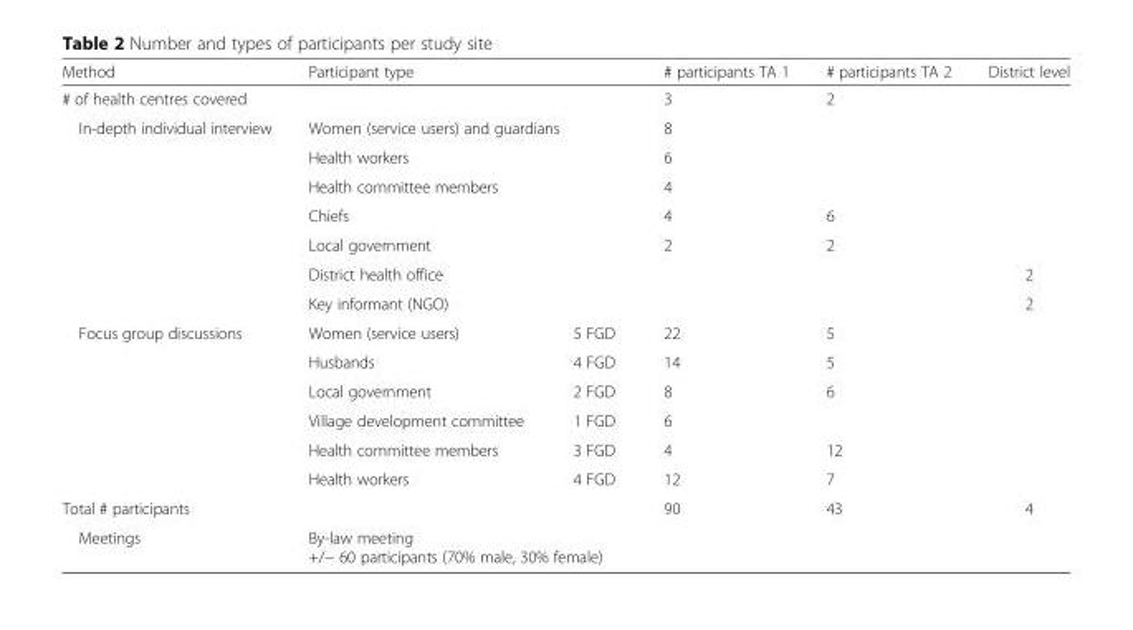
<table><thead><tr><td>Method</td><td colspan="2">Participant type</td><td># participants TA 1</td><td># participants TA 2</td><td>District level</td></tr></thead><tbody><tr><td colspan="3"># of health centres covered</td><td>3</td><td>2</td><td></td></tr><tr><td rowspan="7">In-depth individual interview</td><td colspan="2">Women (service users) and guardians</td><td>8</td><td></td><td></td></tr><tr><td colspan="2">Health workers</td><td>6</td><td></td><td></td></tr><tr><td colspan="2">Health committee members</td><td>4</td><td></td><td></td></tr><tr><td colspan="2">Chiefs</td><td>4</td><td>6</td><td></td></tr><tr><td colspan="2">Local government</td><td>2</td><td>2</td><td></td></tr><tr><td colspan="2">District health office</td><td></td><td></td><td>2</td></tr><tr><td colspan="2">Key informant (NGO)</td><td></td><td></td><td>2</td></tr><tr><td rowspan="6">Focus group discussions</td><td>Women (service users)</td><td>5 FGD</td><td>22</td><td>5</td><td></td></tr><tr><td>Husbands</td><td>4 FGD</td><td>14</td><td>5</td><td></td></tr><tr><td>Local government</td><td>2 FGD</td><td>8</td><td>6</td><td></td></tr><tr><td>Village development committee</td><td>1 FGD</td><td>6</td><td></td><td></td></tr><tr><td>Health committee members</td><td>3 FGD</td><td>4</td><td>12</td><td></td></tr><tr><td>Health workers</td><td>4 FGD</td><td>12</td><td>7</td><td></td></tr><tr><td colspan="3">Total # participants</td><td>90</td><td>43</td><td>4</td></tr><tr><td>Meetings</td><td colspan="2">By-law meeting +/− 60 participants (70% male, 30% female)</td><td></td><td></td><td></td></tr></tbody></table>